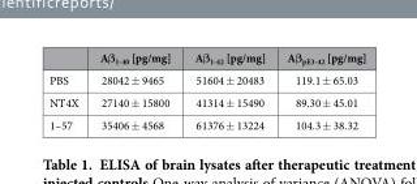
<table><thead><tr><td></td><td>Aβ<sub>1-40</sub> [pg/mg]</td><td>Aβ<sub>1-42</sub> [pg/mg]</td><td>Aβ<sub>pE3-42</sub> [pg/mg]</td></tr></thead><tbody><tr><td>PBS</td><td>28042 ± 9465</td><td>51604 ± 20483</td><td>119.1 ± 65.03</td></tr><tr><td>NT4X</td><td>27140 ± 15800</td><td>41314 ± 15490</td><td>89.30 ± 45.01</td></tr><tr><td>1–57</td><td>35406 ± 4568</td><td>61376 ± 13224</td><td>104.3 ± 38.32</td></tr></tbody></table>